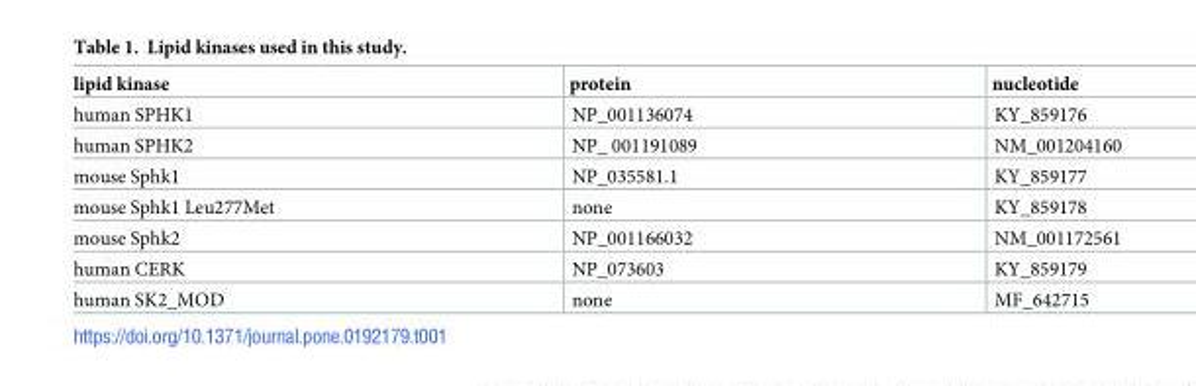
<table><thead><tr><td>lipid kinase</td><td>protein</td><td>nucleotide</td></tr></thead><tbody><tr><td>human SPHK1</td><td>NP_001136074</td><td>KY_859176</td></tr><tr><td>human SPHK2</td><td>NP_ 001191089</td><td>NM_001204160</td></tr><tr><td>mouse Sphk1</td><td>NP_035581.1</td><td>KY_859177</td></tr><tr><td>mouse Sphk1 Leu277Met</td><td>none</td><td>KY_859178</td></tr><tr><td>mouse Sphk2</td><td>NP_001166032</td><td>NM_001172561</td></tr><tr><td>human CERK</td><td>NP_073603</td><td>KY_859179</td></tr><tr><td>human SK2_MOD</td><td>none</td><td>MF_642715</td></tr></tbody></table>